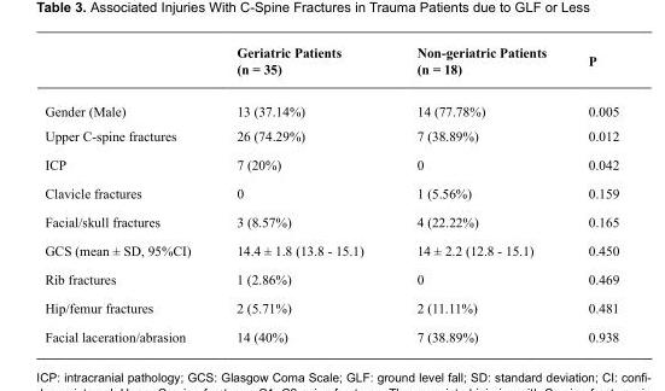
<table><thead><tr><td rowspan="2"></td><td rowspan="2">Geriatric Patients (n = 35)</td><td rowspan="2">Non-geriatric Patients (n = 18)</td><td rowspan="2">P</td></tr><tr></tr></thead><tbody><tr><td>Gender (Male)</td><td>13 (37.14%)</td><td>14 (77.78%)</td><td>0.005</td></tr><tr><td>Upper C-spine fractures</td><td>26 (74.29%)</td><td>7 (38.89%)</td><td>0.012</td></tr><tr><td>ICP</td><td>7 (20%)</td><td>0</td><td>0.042</td></tr><tr><td>Clavicle fractures</td><td>0</td><td>1 (5.56%)</td><td>0.159</td></tr><tr><td>Facial/skull fractures</td><td>3 (8.57%)</td><td>4 (22.22%)</td><td>0.165</td></tr><tr><td>GCS (mean ± SD, 95%CI)</td><td>14.4 ± 1.8 (13.8 - 15.1)</td><td>14 ± 2.2 (12.8 - 15.1)</td><td>0.450</td></tr><tr><td>Rib fractures</td><td>1 (2.86%)</td><td>0</td><td>0.469</td></tr><tr><td>Hip/femur fractures</td><td>2 (5.71%)</td><td>2 (11.11%)</td><td>0.481</td></tr><tr><td>Facial laceration/abrasion</td><td>14 (40%)</td><td>7 (38.89%)</td><td>0.938</td></tr></tbody></table>